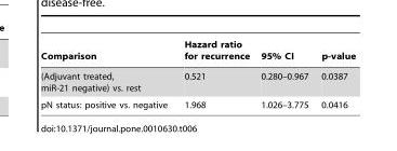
<table><thead><tr><td>Comparison</td><td>Hazard ratio for recurrence</td><td>95% CI</td><td>p-value</td></tr></thead><tbody><tr><td>(Adjuvant treated, miR-21 negative) vs. rest</td><td>0.521</td><td>0.280–0.967</td><td>0.0387</td></tr><tr><td>pN status: positive vs. negative</td><td>1.968</td><td>1.026–3.775</td><td>0.0416</td></tr></tbody></table>